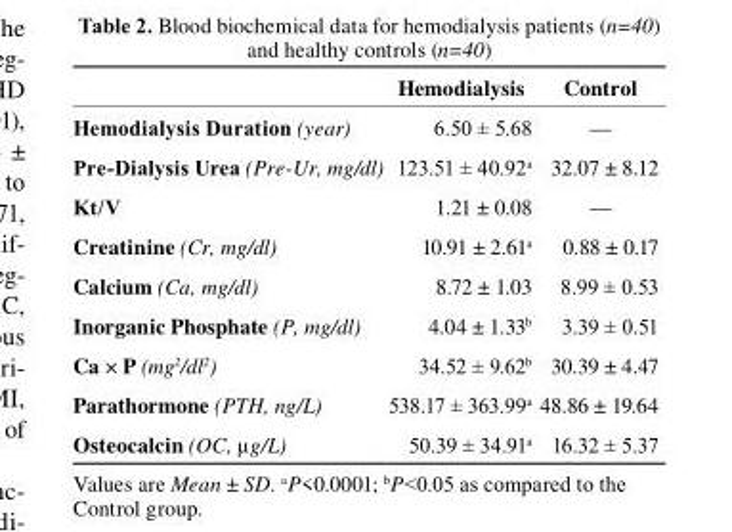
<table><thead><tr><td></td><td>Hemodialysis</td><td>control</td></tr></thead><tbody><tr><td>Hemodialysis Duration (year)</td><td>6.50 ± 5.68</td><td>—</td></tr><tr><td>Pre-Dialysis Urea (Pre-Ur, mg/dl)</td><td>123.51 ± 40.92<sup>a</sup></td><td>32.07 ± 8.12</td></tr><tr><td>Kt/V</td><td>1.21 ± 0.08</td><td>—</td></tr><tr><td>creatinine (Cr, mg/dl)</td><td>10.91 ± 2.61<sup>a</sup></td><td>0.88 ± 0.17</td></tr><tr><td>calcium (Ca, mg/dl)</td><td>8.72 ± 1.03</td><td>8.99 ± 0.53</td></tr><tr><td>Inorganic Phosphate (P, mg/dl)</td><td>4.04 ± 1.33<sup>b</sup></td><td>3.39 ± 0.51</td></tr><tr><td>ca × P (mg<sup>2</sup>/dl<sup>2</sup>)</td><td>34.52 ± 9.62<sup>b</sup></td><td>30.39 ± 4.47</td></tr><tr><td>Parathormone (PTH, ng/L)</td><td>538.17 ± 363.99<sup>a</sup></td><td>48.86 ± 19.64</td></tr><tr><td>Osteocalcin (OC, µg/L)</td><td>50.39 ± 34.91<sup>a</sup></td><td>16.32 ± 5.37</td></tr></tbody></table>